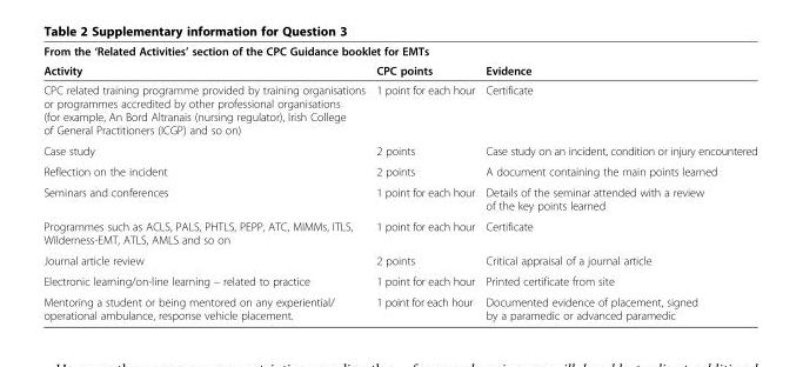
<table><thead><tr><td colspan="3">From the ‘Related Activities’ section of the CPC Guidance booklet for EMTs</td></tr><tr><td>Activity</td><td>CPC points</td><td>Evidence</td></tr></thead><tbody><tr><td>CPC related training programme provided by training organisations or programmes accredited by other professional organisations (for example, An Bord Altranais (nursing regulator), Irish College of General Practitioners (ICGP) and so on)</td><td>1 point for each hour</td><td>Certificate</td></tr><tr><td>Case study</td><td>2 points</td><td>Case study on an incident, condition or injury encountered</td></tr><tr><td>Reflection on the incident</td><td>2 points</td><td>A document containing the main points learned</td></tr><tr><td>Seminars and conferences</td><td>1 point for each hour</td><td>Details of the seminar attended with a review of the key points learned</td></tr><tr><td>Programmes such as ACLS, PALS, PHTLS, PEPP, ATC, MIMMs, ITLS, Wilderness-EMT, ATLS, AMLS and so on</td><td>1 point for each hour</td><td>Certificate</td></tr><tr><td>Journal article review</td><td>2 points</td><td>Critical appraisal of a journal article</td></tr><tr><td>Electronic learning/on-line learning – related to practice</td><td>1 point for each hour</td><td>Printed certificate from site</td></tr><tr><td>Mentoring a student or being mentored on any experiential/ operational ambulance, response vehicle placement.</td><td>1 point for each hour</td><td>Documented evidence of placement, signed by a paramedic or advanced paramedic</td></tr></tbody></table>